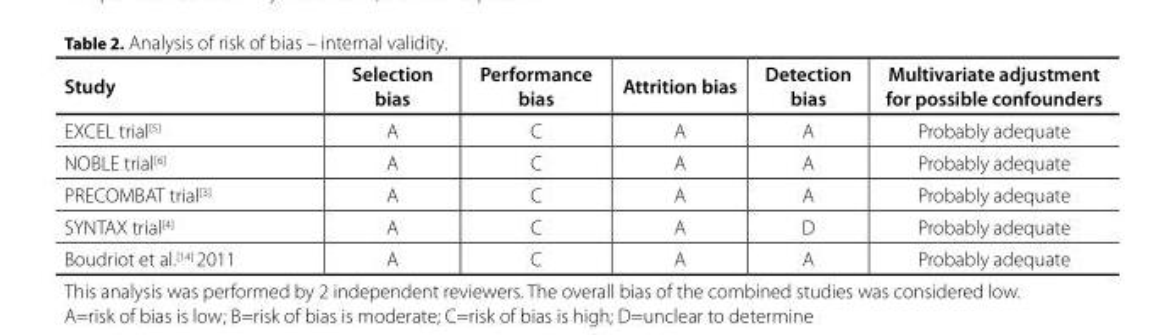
<table><thead><tr><td>Study</td><td>Selection bias</td><td>Performance bias</td><td>Attrition bias</td><td>Detection bias</td><td>Multivariate adjustment for possible confounders</td></tr></thead><tbody><tr><td>EXCEL trial<sup>[5]</sup></td><td>A</td><td>C</td><td>A</td><td>A</td><td>Probably adequate</td></tr><tr><td>NOBLE trial<sup>[6]</sup></td><td>A</td><td>C</td><td>A</td><td>A</td><td>Probably adequate</td></tr><tr><td>PRECOMBAT trial<sup>[3]</sup></td><td>A</td><td>C</td><td>A</td><td>A</td><td>Probably adequate</td></tr><tr><td>SYNTAX trial<sup>[4]</sup></td><td>A</td><td>C</td><td>A</td><td>D</td><td>Probably adequate</td></tr><tr><td>Boudriot et al.<sup>[14]</sup> 2011</td><td>A</td><td>C</td><td>A</td><td>A</td><td>Probably adequate</td></tr></tbody></table>